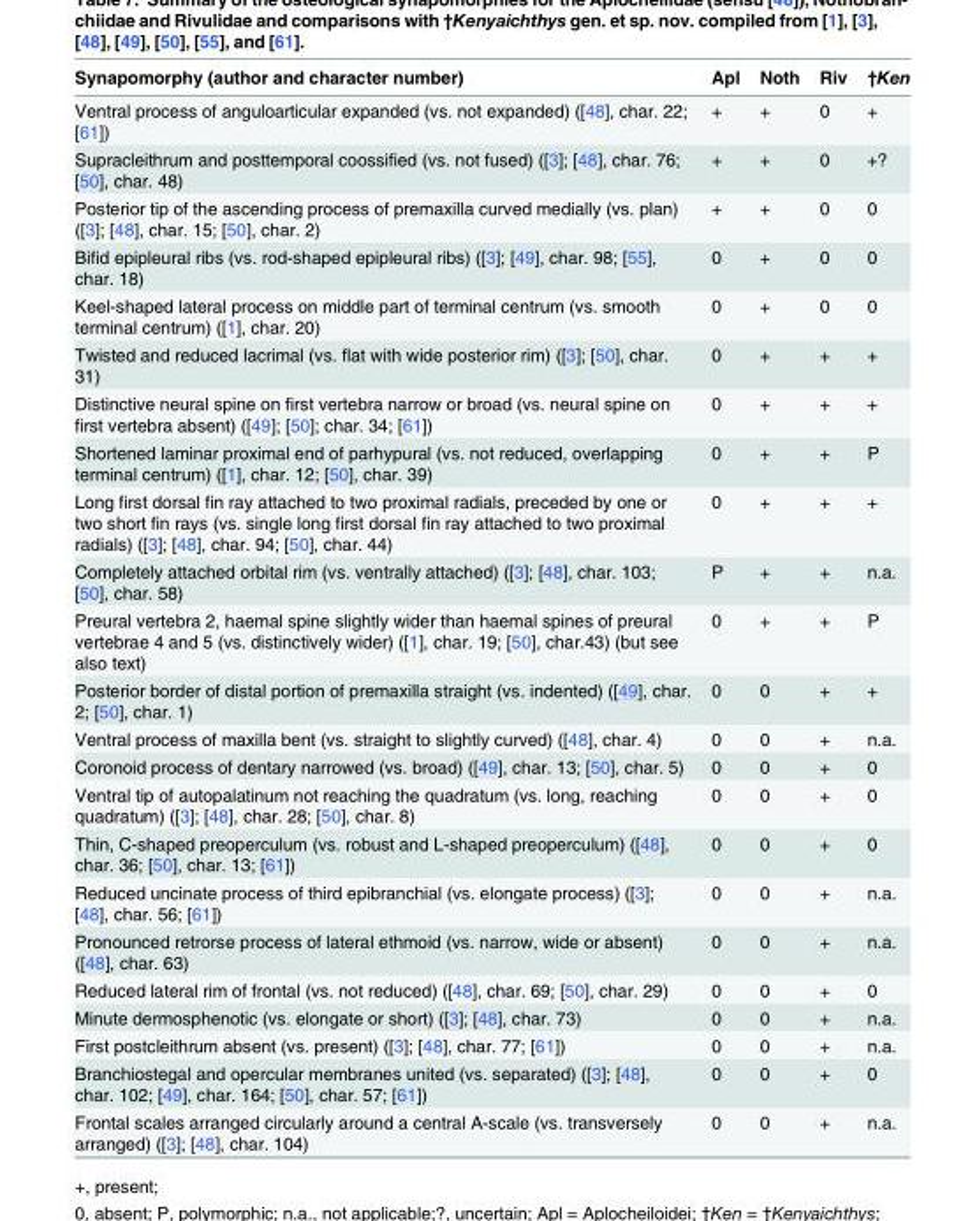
<table><thead><tr><td>Synapomorphy (author and character number)</td><td>Apl</td><td>Noth</td><td>Riv</td><td>†Ken</td></tr></thead><tbody><tr><td>Ventral process of anguloarticular expanded (vs. not expanded) ([48], char. 22; [61])</td><td>+</td><td>+</td><td>0</td><td>+</td></tr><tr><td>Supracleithrum and posttemporal coossified (vs. not fused) ([3]; [48], char. 76; [50], char. 48)</td><td>+</td><td>+</td><td>0</td><td>+?</td></tr><tr><td>Posterior tip of the ascending process of premaxilla curved medially (vs. plan) ([3]; [48], char. 15; [50], char. 2)</td><td>+</td><td>+</td><td>0</td><td>0</td></tr><tr><td>Bifid epipleural ribs (vs. rod-shaped epipleural ribs) ([3]; [49], char. 98; [55], char. 18)</td><td>0</td><td>+</td><td>0</td><td>0</td></tr><tr><td>Keel-shaped lateral process on middle part of terminal centrum (vs. smooth terminal centrum) ([1], char. 20)</td><td>0</td><td>+</td><td>0</td><td>0</td></tr><tr><td>Twisted and reduced lacrimal (vs. flat with wide posterior rim) ([3]; [50], char. 31)</td><td>0</td><td>+</td><td>+</td><td>+</td></tr><tr><td>Distinctive neural spine on first vertebra narrow or broad (vs. neural spine on first vertebra absent) ([49]; [50]; char. 34; [61])</td><td>0</td><td>+</td><td>+</td><td>+</td></tr><tr><td>Shortened laminar proximal end of parhypural (vs. not reduced, overlapping terminal centrum) ([1], char. 12; [50], char. 39)</td><td>0</td><td>+</td><td>+</td><td>P</td></tr><tr><td>Long first dorsal fin ray attached to two proximal radials, preceded by one or two short fin rays (vs. single long first dorsal fin ray attached to two proximal radials) ([3]; [48], char. 94; [50], char. 44)</td><td>0</td><td>+</td><td>+</td><td>+</td></tr><tr><td>Completely attached orbital rim (vs. ventrally attached) ([3]; [48], char. 103; [50], char. 58)</td><td>P</td><td>+</td><td>+</td><td>n.a.</td></tr><tr><td>Preural vertebra 2, haemal spine slightly wider than haemal spines of preural vertebrae 4 and 5 (vs. distinctively wider) ([1], char. 19; [50], char.43) (but see also text)</td><td>0</td><td>+</td><td>+</td><td>P</td></tr><tr><td>Posterior border of distal portion of premaxilla straight (vs. indented) ([49], char. 2; [50], char. 1)</td><td>0</td><td>0</td><td>+</td><td>+</td></tr><tr><td>Ventral process of maxilla bent (vs. straight to slightly curved) ([48], char. 4)</td><td>0</td><td>0</td><td>+</td><td>n.a.</td></tr><tr><td>Coronoid process of dentary narrowed (vs. broad) ([49], char. 13; [50], char. 5)</td><td>0</td><td>0</td><td>+</td><td>0</td></tr><tr><td>Ventral tip of autopalatinum not reaching the quadratum (vs. long, reaching quadratum) ([3]; [48], char. 28; [50], char. 8)</td><td>0</td><td>0</td><td>+</td><td>0</td></tr><tr><td>Thin, C-shaped preoperculum (vs. robust and L-shaped preoperculum) ([48], char. 36; [50], char. 13; [61])</td><td>0</td><td>0</td><td>+</td><td>0</td></tr><tr><td>Reduced uncinate process of third epibranchial (vs. elongate process) ([3]; [48], char. 56; [61])</td><td>0</td><td>0</td><td>+</td><td>n.a.</td></tr><tr><td>Pronounced retrorse process of lateral ethmoid (vs. narrow, wide or absent) ([48], char. 63)</td><td>0</td><td>0</td><td>+</td><td>n.a.</td></tr><tr><td>Reduced lateral rim of frontal (vs. not reduced) ([48], char. 69; [50], char. 29)</td><td>0</td><td>0</td><td>+</td><td>0</td></tr><tr><td>Minute dermosphenotic (vs. elongate or short) ([3]; [48], char. 73)</td><td>0</td><td>0</td><td>+</td><td>n.a.</td></tr><tr><td>First postcleithrum absent (vs. present) ([3]; [48], char. 77; [61])</td><td>0</td><td>0</td><td>+</td><td>n.a.</td></tr><tr><td>Branchiostegal and opercular membranes united (vs. separated) ([3]; [48], char. 102; [49], char. 164; [50], char. 57; [61])</td><td>0</td><td>0</td><td>+</td><td>0</td></tr><tr><td>Frontal scales arranged circularly around a central A-scale (vs. transversely arranged) ([3]; [48], char. 104)</td><td>0</td><td>0</td><td>+</td><td>n.a.</td></tr></tbody></table>